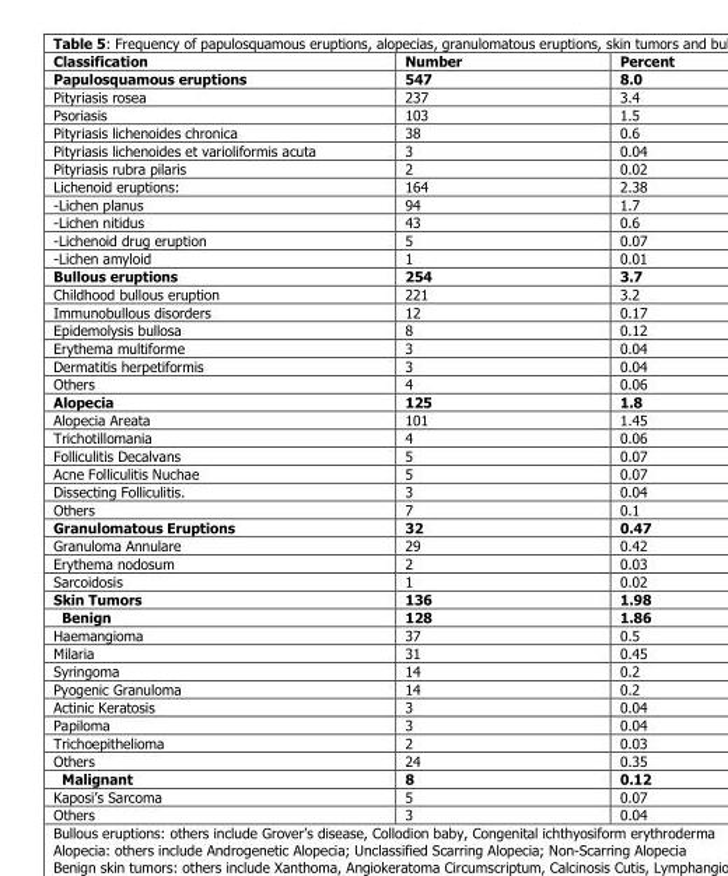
<table><thead><tr><td>Classification</td><td>Number</td><td>Percent</td></tr></thead><tbody><tr><td>Papulosquamous eruptions</td><td>547</td><td>8.0</td></tr><tr><td>Pityriasis rosea</td><td>237</td><td>3.4</td></tr><tr><td>Psoriasis</td><td>103</td><td>1.5</td></tr><tr><td>Pityriasis lichenoides chronica</td><td>38</td><td>0.6</td></tr><tr><td>Pityriasis lichenoides et varioliformis acuta</td><td>3</td><td>0.04</td></tr><tr><td>Pityriasis rubra pilaris</td><td>2</td><td>0.02</td></tr><tr><td>Lichenoid eruptions:</td><td>164</td><td>2.38</td></tr><tr><td>-Lichen planus</td><td>94</td><td>1.7</td></tr><tr><td>-Lichen nitidus</td><td>43</td><td>0.6</td></tr><tr><td>-Lichenoid drug eruption</td><td>5</td><td>0.07</td></tr><tr><td>-Lichen amyloid</td><td>1</td><td>0.01</td></tr><tr><td>Bullous eruptions</td><td>254</td><td>3.7</td></tr><tr><td>Childhood bullous eruption</td><td>221</td><td>3.2</td></tr><tr><td>Immunobullous disorders</td><td>12</td><td>0.17</td></tr><tr><td>Epidemolysis bullosa</td><td>8</td><td>0.12</td></tr><tr><td>Erythema multiforme</td><td>3</td><td>0.04</td></tr><tr><td>Dermatitis herpetiformis</td><td>3</td><td>0.04</td></tr><tr><td>Others</td><td>4</td><td>0.06</td></tr><tr><td>Alopecia</td><td>125</td><td>1.8</td></tr><tr><td>Alopecia Areata</td><td>101</td><td>1.45</td></tr><tr><td>Trichotillomania</td><td>4</td><td>0.06</td></tr><tr><td>Folliculitis Decalvans</td><td>5</td><td>0.07</td></tr><tr><td>Acne Folliculitis Nuchae</td><td>5</td><td>0.07</td></tr><tr><td>Dissecting Folliculitis.</td><td>3</td><td>0.04</td></tr><tr><td>Others</td><td>7</td><td>0.1</td></tr><tr><td>Granulomatous Eruptions</td><td>32</td><td>0.47</td></tr><tr><td>Granuloma Annulare</td><td>29</td><td>0.42</td></tr><tr><td>Erythema nodosum</td><td>2</td><td>0.03</td></tr><tr><td>Sarcoidosis</td><td>1</td><td>0.02</td></tr><tr><td>Skin Tumors</td><td>136</td><td>1.98</td></tr><tr><td>Benign</td><td>128</td><td>1.86</td></tr><tr><td>Haemangioma</td><td>37</td><td>0.5</td></tr><tr><td>Milaria</td><td>31</td><td>0.45</td></tr><tr><td>Syringoma</td><td>14</td><td>0.2</td></tr><tr><td>Pyogenic Granuloma</td><td>14</td><td>0.2</td></tr><tr><td>Actinic Keratosis</td><td>3</td><td>0.04</td></tr><tr><td>Papiloma</td><td>3</td><td>0.04</td></tr><tr><td>Trichoepithelioma</td><td>2</td><td>0.03</td></tr><tr><td>Others</td><td>24</td><td>0.35</td></tr><tr><td>Malignant</td><td>8</td><td>0.12</td></tr><tr><td>Kaposi’s Sarcoma</td><td>5</td><td>0.07</td></tr><tr><td>Others</td><td>3</td><td>0.04</td></tr></tbody></table>